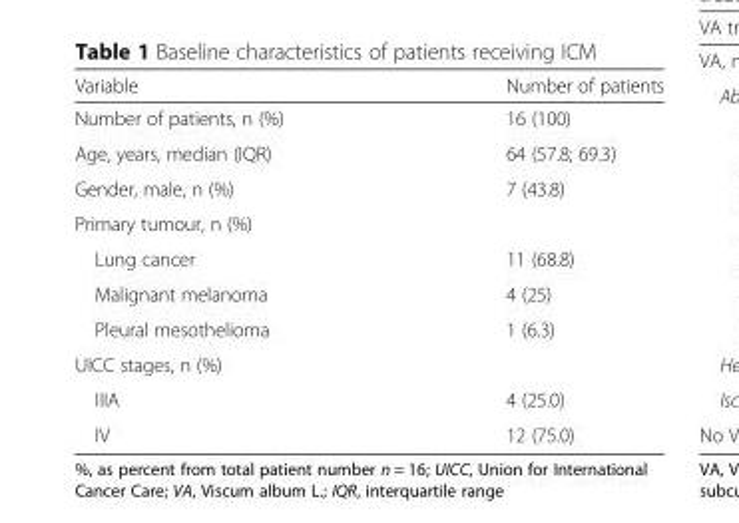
<table><thead><tr><td>Variable</td><td>Number of patients</td></tr></thead><tbody><tr><td>Number of patients, n (%)</td><td>16 (100)</td></tr><tr><td>Age, years, median (IQR)</td><td>64 (57.8; 69.3)</td></tr><tr><td>Gender, male, n (%)</td><td>7 (43.8)</td></tr><tr><td colspan="2">Primary tumour, n (%)</td></tr><tr><td>Lung cancer</td><td>11 (68.8)</td></tr><tr><td>Malignant melanoma</td><td>4 (25)</td></tr><tr><td>Pleural mesothelioma</td><td>1 (6.3)</td></tr><tr><td colspan="2">UICC stages, n (%)</td></tr><tr><td>IIIA</td><td>4 (25.0)</td></tr><tr><td>IV</td><td>12 (75.0)</td></tr></tbody></table>